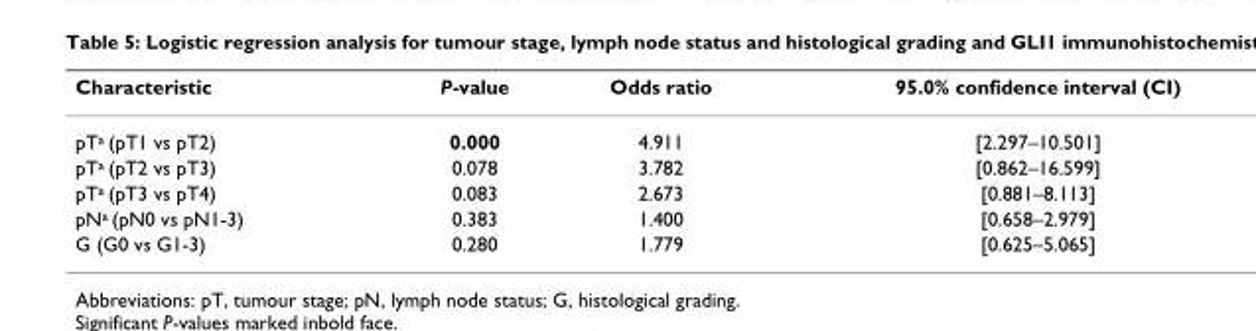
<table><thead><tr><td>Characteristic</td><td>P-value</td><td>Odds ratio</td><td>95.0% confidence interval (CI)</td></tr></thead><tbody><tr><td>pT<sup>a</sup> (pT1 vs pT2)</td><td>0.000</td><td>4.911</td><td>[2.297–10.501]</td></tr><tr><td>pT<sup>a</sup> (pT2 vs pT3)</td><td>0.078</td><td>3.782</td><td>[0.862–16.599]</td></tr><tr><td>pT<sup>a</sup> (pT3 vs pT4)</td><td>0.083</td><td>2.673</td><td>[0.881–8.113]</td></tr><tr><td>pN<sup>a</sup> (pN0 vs pN1-3)</td><td>0.383</td><td>1.400</td><td>[0.658–2.979]</td></tr><tr><td>G (G0 vs G1-3)</td><td>0.280</td><td>1.779</td><td>[0.625–5.065]</td></tr></tbody></table>